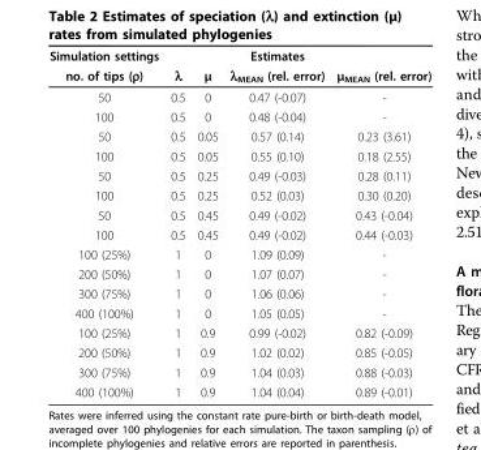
<table><thead><tr><td rowspan="2">Simulation settings no. of tips (ρ)</td><td rowspan="2">λ</td><td rowspan="2">μ</td><td rowspan="2">Estimates λ<sub>MEAN</sub> (rel. error)</td><td rowspan="2">μ<sub>MEAN</sub> (rel. error)</td></tr><tr></tr></thead><tbody><tr><td>50</td><td>0.5</td><td>0</td><td>0.47 (-0.07)</td><td>-</td></tr><tr><td>100</td><td>0.5</td><td>0</td><td>0.48 (-0.04)</td><td>-</td></tr><tr><td>50</td><td>0.5</td><td>0.05</td><td>0.57 (0.14)</td><td>0.23 (3.61)</td></tr><tr><td>100</td><td>0.5</td><td>0.05</td><td>0.55 (0.10)</td><td>0.18 (2.55)</td></tr><tr><td>50</td><td>0.5</td><td>0.25</td><td>0.49 (-0.03)</td><td>0.28 (0.11)</td></tr><tr><td>100</td><td>0.5</td><td>0.25</td><td>0.52 (0.03)</td><td>0.30 (0.20)</td></tr><tr><td>50</td><td>0.5</td><td>0.45</td><td>0.49 (-0.02)</td><td>0.43 (-0.04)</td></tr><tr><td>100</td><td>0.5</td><td>0.45</td><td>0.49 (-0.02)</td><td>0.44 (-0.03)</td></tr><tr><td>100 (25%)</td><td>1</td><td>0</td><td>1.09 (0.09)</td><td>-</td></tr><tr><td>200 (50%)</td><td>1</td><td>0</td><td>1.07 (0.07)</td><td>-</td></tr><tr><td>300 (75%)</td><td>1</td><td>0</td><td>1.06 (0.06)</td><td>-</td></tr><tr><td>400 (100%)</td><td>1</td><td>0</td><td>1.05 (0.05)</td><td>-</td></tr><tr><td>100 (25%)</td><td>1</td><td>0.9</td><td>0.99 (-0.02)</td><td>0.82 (-0.09)</td></tr><tr><td>200 (50%)</td><td>1</td><td>0.9</td><td>1.02 (0.02)</td><td>0.85 (-0.05)</td></tr><tr><td>300 (75%)</td><td>1</td><td>0.9</td><td>1.04 (0.03)</td><td>0.88 (-0.03)</td></tr><tr><td>400 (100%)</td><td>1</td><td>0.9</td><td>1.04 (0.04)</td><td>0.89 (-0.01)</td></tr></tbody></table>